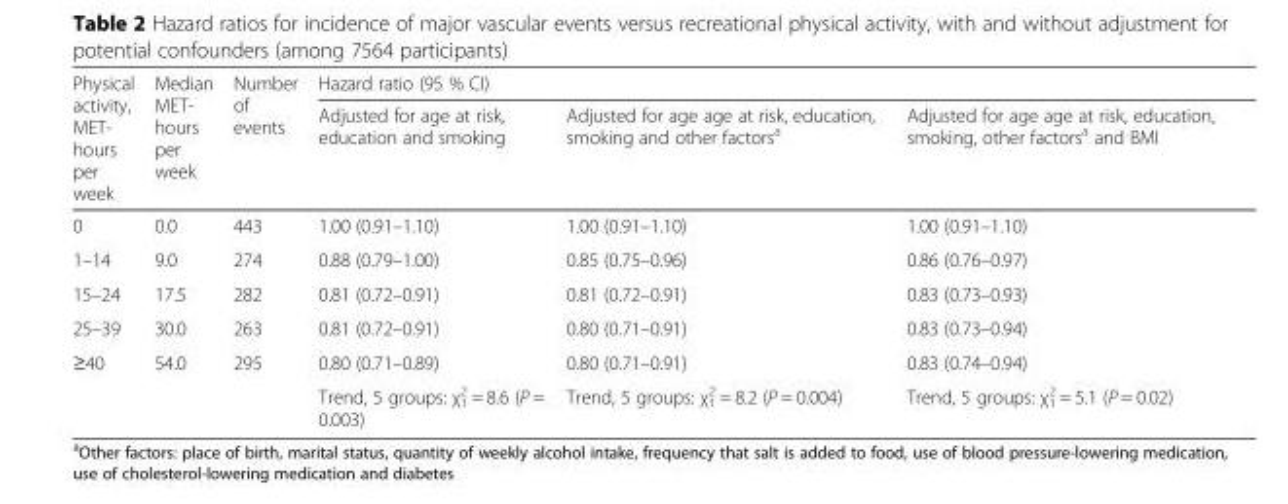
<table><thead><tr><td rowspan="2">Physical activity, MET- hours per week</td><td rowspan="2">Median MET- hours per week</td><td rowspan="2">Number of events</td><td colspan="3">Hazard ratio (95 % CI)</td></tr><tr><td>Adjusted for age at risk, education and smoking</td><td>Adjusted for age age at risk, education, smoking and other factors<sup>a</sup></td><td>Adjusted for age age at risk, education, smoking, other factors<sup>a</sup> and BMI</td></tr></thead><tbody><tr><td>0</td><td>0.0</td><td>443</td><td>1.00 (0.91–1.10)</td><td>1.00 (0.91–1.10)</td><td>1.00 (0.91–1.10)</td></tr><tr><td>1–14</td><td>9.0</td><td>274</td><td>0.88 (0.79–1.00)</td><td>0.85 (0.75–0.96)</td><td>0.86 (0.76–0.97)</td></tr><tr><td>15–24</td><td>17.5</td><td>282</td><td>0.81 (0.72–0.91)</td><td>0.81 (0.72–0.91)</td><td>0.83 (0.73–0.93)</td></tr><tr><td>25–39</td><td>30.0</td><td>263</td><td>0.81 (0.72–0.91)</td><td>0.80 (0.71–0.91)</td><td>0.83 (0.73–0.94)</td></tr><tr><td rowspan="2">≥40</td><td>54.0</td><td>295</td><td>0.80 (0.71–0.89)</td><td>0.80 (0.71–0.91)</td><td>0.83 (0.74–0.94)</td></tr><tr><td></td><td></td><td>Trend, 5 groups: χ<sup>2</sup> <sub>1</sub> = 8.6 (P = 0.003)</td><td>Trend, 5 groups: χ<sup>2</sup> <sub>1</sub> = 8.2 (P = 0.004)</td><td>Trend, 5 groups: χ<sup>2</sup> <sub>1</sub> = 5.1 (P = 0.02)</td></tr></tbody></table>